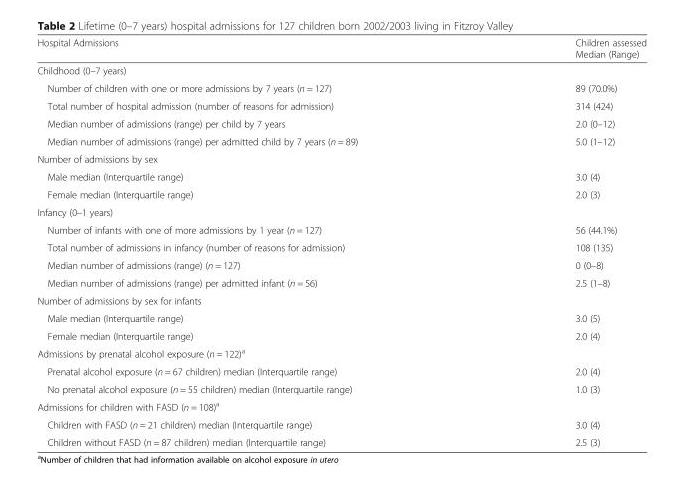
<table><thead><tr><td>Hospital Admissions</td><td>Children assessed Median (Range)</td></tr></thead><tbody><tr><td colspan="2">Childhood (0–7 years)</td></tr><tr><td>Number of children with one or more admissions by 7 years (n = 127)</td><td>89 (70.0%)</td></tr><tr><td>Total number of hospital admission (number of reasons for admission)</td><td>314 (424)</td></tr><tr><td>Median number of admissions (range) per child by 7 years</td><td>2.0 (0–12)</td></tr><tr><td>Median number of admissions (range) per admitted child by 7 years (n = 89)</td><td>5.0 (1–12)</td></tr><tr><td colspan="2">Number of admissions by sex</td></tr><tr><td>Male median (Interquartile range)</td><td>3.0 (4)</td></tr><tr><td>Female median (Interquartile range)</td><td>2.0 (3)</td></tr><tr><td colspan="2">Infancy (0–1 years)</td></tr><tr><td>Number of infants with one of more admissions by 1 year (n = 127)</td><td>56 (44.1%)</td></tr><tr><td>Total number of admissions in infancy (number of reasons for admission)</td><td>108 (135)</td></tr><tr><td>Median number of admissions (range) (n = 127)</td><td>0 (0–8)</td></tr><tr><td>Median number of admissions (range) per admitted infant (n = 56)</td><td>2.5 (1–8)</td></tr><tr><td colspan="2">Number of admissions by sex for infants</td></tr><tr><td>Male median (Interquartile range)</td><td>3.0 (5)</td></tr><tr><td>Female median (Interquartile range)</td><td>2.0 (4)</td></tr><tr><td colspan="2">Admissions by prenatal alcohol exposure (n = 122)<sup>a</sup></td></tr><tr><td>Prenatal alcohol exposure (n = 67 children) median (Interquartile range)</td><td>2.0 (4)</td></tr><tr><td>No prenatal alcohol exposure (n = 55 children) median (Interquartile range)</td><td>1.0 (3)</td></tr><tr><td colspan="2">Admissions for children with FASD (n = 108)<sup>a</sup></td></tr><tr><td>Children with FASD (n = 21 children) median (Interquartile range)</td><td>3.0 (4)</td></tr><tr><td>Children without FASD (n = 87 children) median (Interquartile range)</td><td>2.5 (3)</td></tr></tbody></table>